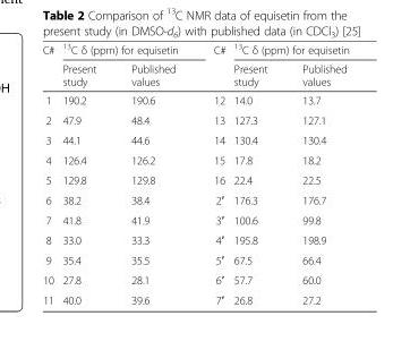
<table><thead><tr><td rowspan="2">C#</td><td colspan="2"><sup>13</sup>C δ (ppm) for equisetin</td><td rowspan="2">C#</td><td colspan="2"><sup>13</sup>C δ (ppm) for equisetin</td></tr><tr><td>Present study</td><td>Published values</td><td>Present study</td><td>Published values</td></tr></thead><tbody><tr><td>1</td><td>190.2</td><td>190.6</td><td>12</td><td>14.0</td><td>13.7</td></tr><tr><td>2</td><td>47.9</td><td>48.4</td><td>13</td><td>127.3</td><td>127.1</td></tr><tr><td>3</td><td>44.1</td><td>44.6</td><td>14</td><td>130.4</td><td>130.4</td></tr><tr><td>4</td><td>126.4</td><td>126.2</td><td>15</td><td>17.8</td><td>18.2</td></tr><tr><td>5</td><td>129.8</td><td>129.8</td><td>16</td><td>22.4</td><td>22.5</td></tr><tr><td>6</td><td>38.2</td><td>38.4</td><td>2′</td><td>176.3</td><td>176.7</td></tr><tr><td>7</td><td>41.8</td><td>41.9</td><td>3′</td><td>100.6</td><td>99.8</td></tr><tr><td>8</td><td>33.0</td><td>33.3</td><td>4′</td><td>195.8</td><td>198.9</td></tr><tr><td>9</td><td>35.4</td><td>35.5</td><td>5′</td><td>67.5</td><td>66.4</td></tr><tr><td>10</td><td>27.8</td><td>28.1</td><td>6′</td><td>57.7</td><td>60.0</td></tr><tr><td>11</td><td>40.0</td><td>39.6</td><td>7′</td><td>26.8</td><td>27.2</td></tr></tbody></table>